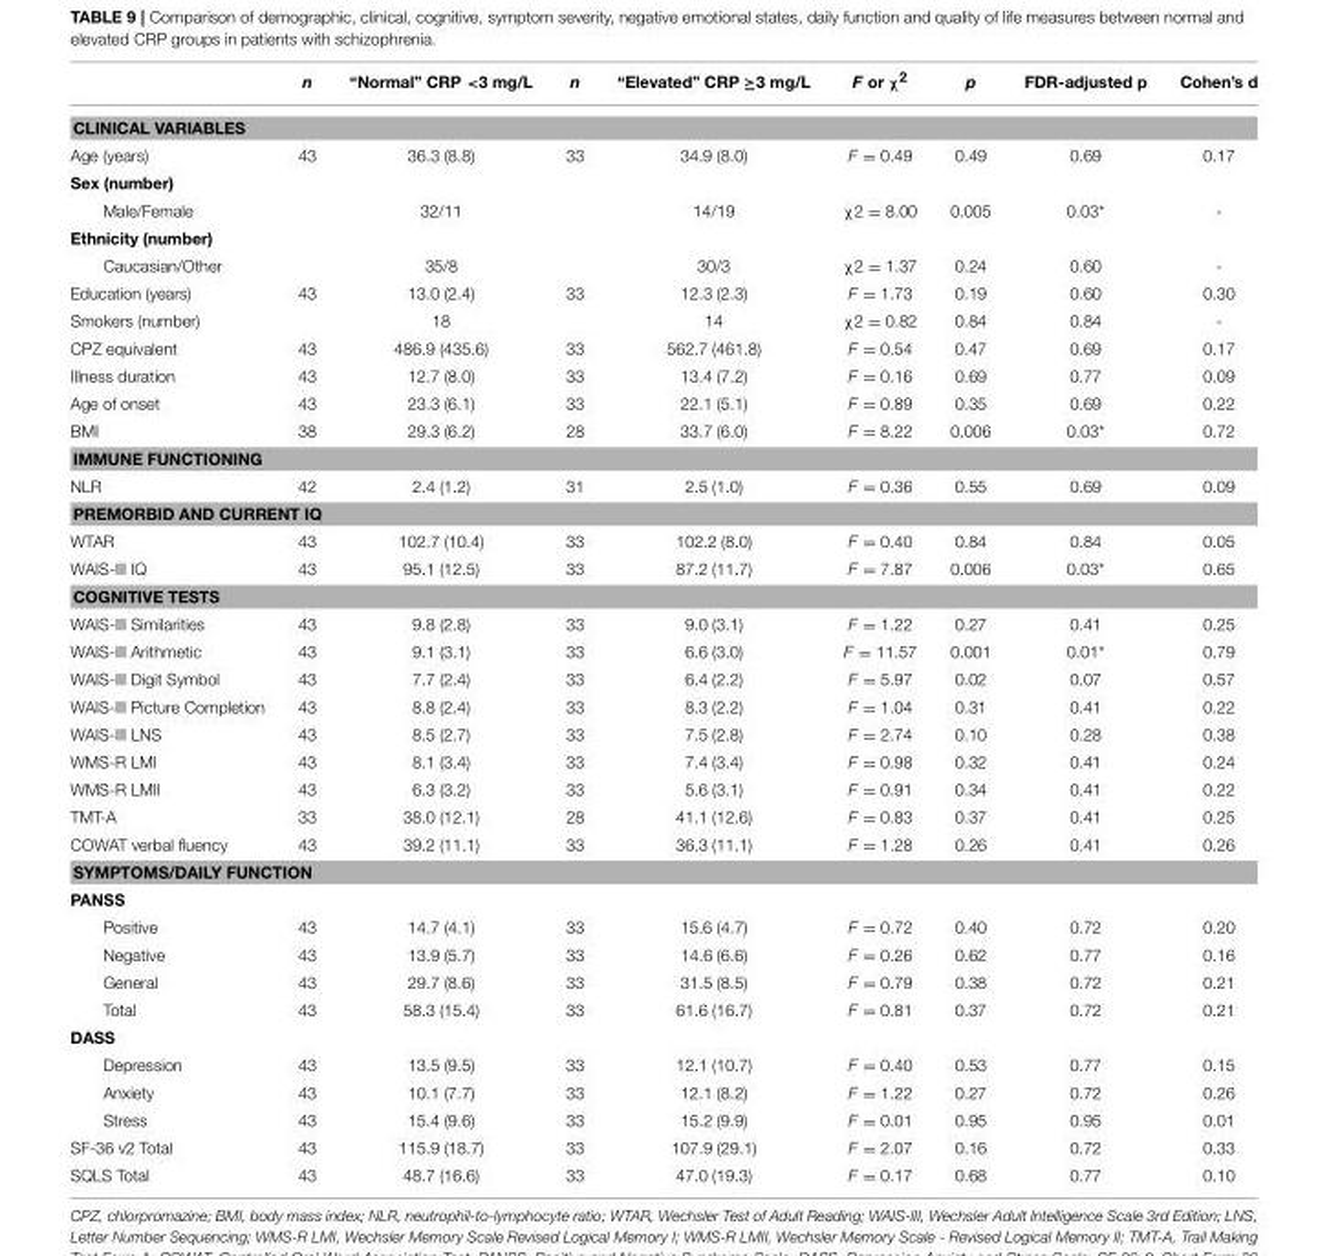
<table><thead><tr><td></td><td>n</td><td>“Normal” CRP &lt;3 mg/L</td><td>n</td><td>“Elevated” CRP ≥3 mg/L</td><td>F or χ<sup>2</sup></td><td>p</td><td>FDR-adjusted p</td><td>Cohen’s d</td></tr></thead><tbody><tr><td colspan="9">CLINICAL VARIABLES</td></tr><tr><td>Age (years)</td><td>43</td><td>36.3 (8.8)</td><td>33</td><td>34.9 (8.0)</td><td>F = 0.49</td><td>0.49</td><td>0.69</td><td>0.17</td></tr><tr><td colspan="9">Sex (number)</td></tr><tr><td>Male/Female</td><td></td><td>32/11</td><td></td><td>14/19</td><td>χ<sup>2</sup> = 8.00</td><td>0.005</td><td>0.03*</td><td>-</td></tr><tr><td colspan="9">Ethnicity (number)</td></tr><tr><td>Caucasian/Other</td><td></td><td>35/8</td><td></td><td>30/3</td><td>χ<sup>2</sup> = 1.37</td><td>0.24</td><td>0.60</td><td>-</td></tr><tr><td>Education (years)</td><td>43</td><td>13.0 (2.4)</td><td>33</td><td>12.3 (2.3)</td><td>F = 1.73</td><td>0.19</td><td>0.60</td><td>0.30</td></tr><tr><td>Smokers (number)</td><td></td><td>18</td><td></td><td>14</td><td>χ<sup>2</sup> = 0.82</td><td>0.84</td><td>0.84</td><td>-</td></tr><tr><td>CPZ equivalent</td><td>43</td><td>486.9 (435.6)</td><td>33</td><td>562.7 (461.8)</td><td>F = 0.54</td><td>0.47</td><td>0.69</td><td>0.17</td></tr><tr><td>Illness duration</td><td>43</td><td>12.7 (8.0)</td><td>33</td><td>13.4 (7.2)</td><td>F = 0.16</td><td>0.69</td><td>0.77</td><td>0.09</td></tr><tr><td>Age of onset</td><td>43</td><td>23.3 (6.1)</td><td>33</td><td>22.1 (5.1)</td><td>F = 0.89</td><td>0.35</td><td>0.69</td><td>0.22</td></tr><tr><td>BMI</td><td>38</td><td>29.3 (6.2)</td><td>28</td><td>33.7 (6.0)</td><td>F = 8.22</td><td>0.006</td><td>0.03*</td><td>0.72</td></tr><tr><td colspan="9">IMMUNE FUNCTIONING</td></tr><tr><td>NLR</td><td>42</td><td>2.4 (1.2)</td><td>31</td><td>2.5 (1.0)</td><td>F = 0.36</td><td>0.55</td><td>0.69</td><td>0.09</td></tr><tr><td colspan="9">PREMORBID AND CURRENT IQ</td></tr><tr><td>WTAR</td><td>43</td><td>102.7 (10.4)</td><td>33</td><td>102.2 (8.0)</td><td>F = 0.40</td><td>0.84</td><td>0.84</td><td>0.05</td></tr><tr><td>WAIS-III IQ</td><td>43</td><td>95.1 (12.5)</td><td>33</td><td>87.2 (11.7)</td><td>F = 7.87</td><td>0.006</td><td>0.03*</td><td>0.65</td></tr><tr><td colspan="9">COGNITIVE TESTS</td></tr><tr><td>WAIS-III Similarities</td><td>43</td><td>9.8 (2.8)</td><td>33</td><td>9.0 (3.1)</td><td>F = 1.22</td><td>0.27</td><td>0.41</td><td>0.25</td></tr><tr><td>WAIS-III Arithmetic</td><td>43</td><td>9.1 (3.1)</td><td>33</td><td>6.6 (3.0)</td><td>F = 11.57</td><td>0.001</td><td>0.01*</td><td>0.79</td></tr><tr><td>WAIS-III Digit Symbol</td><td>43</td><td>7.7 (2.4)</td><td>33</td><td>6.4 (2.2)</td><td>F = 5.97</td><td>0.02</td><td>0.07</td><td>0.57</td></tr><tr><td>WAIS-III Picture Completion</td><td>43</td><td>8.8 (2.4)</td><td>33</td><td>8.3 (2.2)</td><td>F = 1.04</td><td>0.31</td><td>0.41</td><td>0.22</td></tr><tr><td>WAIS-III LNS</td><td>43</td><td>8.5 (2.7)</td><td>33</td><td>7.5 (2.8)</td><td>F = 2.74</td><td>0.10</td><td>0.28</td><td>0.38</td></tr><tr><td>WMS-R LMI</td><td>43</td><td>8.1 (3.4)</td><td>33</td><td>7.4 (3.4)</td><td>F = 0.98</td><td>0.32</td><td>0.41</td><td>0.24</td></tr><tr><td>WMS-R LMII</td><td>43</td><td>6.3 (3.2)</td><td>33</td><td>5.6 (3.1)</td><td>F = 0.91</td><td>0.34</td><td>0.41</td><td>0.22</td></tr><tr><td>TMT-A</td><td>33</td><td>38.0 (12.1)</td><td>28</td><td>41.1 (12.6)</td><td>F = 0.83</td><td>0.37</td><td>0.41</td><td>0.25</td></tr><tr><td>COWAT verbal fluency</td><td>43</td><td>39.2 (11.1)</td><td>33</td><td>36.3 (11.1)</td><td>F = 1.28</td><td>0.26</td><td>0.41</td><td>0.26</td></tr><tr><td colspan="9">SYMPTOMS/DAILY FUNCTION</td></tr><tr><td colspan="9">PANSS</td></tr><tr><td>Positive</td><td>43</td><td>14.7 (4.1)</td><td>33</td><td>15.6 (4.7)</td><td>F = 0.72</td><td>0.40</td><td>0.72</td><td>0.20</td></tr><tr><td>Negative</td><td>43</td><td>13.9 (5.7)</td><td>33</td><td>14.6 (6.6)</td><td>F = 0.26</td><td>0.62</td><td>0.77</td><td>0.16</td></tr><tr><td>General</td><td>43</td><td>29.7 (8.6)</td><td>33</td><td>31.5 (8.5)</td><td>F = 0.79</td><td>0.38</td><td>0.72</td><td>0.21</td></tr><tr><td>Total</td><td>43</td><td>58.3 (15.4)</td><td>33</td><td>61.6 (16.7)</td><td>F = 0.81</td><td>0.37</td><td>0.72</td><td>0.21</td></tr><tr><td colspan="9">DASS</td></tr><tr><td>Depression</td><td>43</td><td>13.5 (9.5)</td><td>33</td><td>12.1 (10.7)</td><td>F = 0.40</td><td>0.53</td><td>0.77</td><td>0.15</td></tr><tr><td>Anxiety</td><td>43</td><td>10.1 (7.7)</td><td>33</td><td>12.1 (8.2)</td><td>F = 1.22</td><td>0.27</td><td>0.72</td><td>0.26</td></tr><tr><td>Stress</td><td>43</td><td>15.4 (9.6)</td><td>33</td><td>15.2 (9.9)</td><td>F = 0.01</td><td>0.95</td><td>0.95</td><td>0.01</td></tr><tr><td>SF-36 v2 Total</td><td>43</td><td>115.9 (18.7)</td><td>33</td><td>107.9 (29.1)</td><td>F = 2.07</td><td>0.16</td><td>0.72</td><td>0.33</td></tr><tr><td>SQLS Total</td><td>43</td><td>48.7 (16.6)</td><td>33</td><td>47.0 (19.3)</td><td>F = 0.17</td><td>0.68</td><td>0.77</td><td>0.10</td></tr></tbody></table>